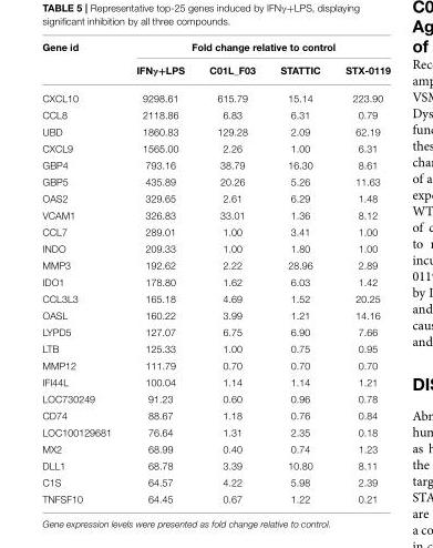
<table><thead><tr><td rowspan="2">Gene id</td><td colspan="4">Fold change relative to control</td></tr><tr><td>IFNγ+LPS</td><td>C01L_F03</td><td>STATTIC</td><td>STX-0119</td></tr></thead><tbody><tr><td>CXCL10</td><td>9298.61</td><td>615.79</td><td>15.14</td><td>223.90</td></tr><tr><td>CCL8</td><td>2118.86</td><td>6.83</td><td>6.31</td><td>0.79</td></tr><tr><td>UBD</td><td>1860.83</td><td>129.28</td><td>2.09</td><td>62.19</td></tr><tr><td>CXCL9</td><td>1565.00</td><td>2.26</td><td>1.00</td><td>6.31</td></tr><tr><td>GBP4</td><td>793.16</td><td>38.79</td><td>16.30</td><td>8.61</td></tr><tr><td>GBP5</td><td>435.89</td><td>20.26</td><td>5.26</td><td>11.63</td></tr><tr><td>OAS2</td><td>329.65</td><td>2.61</td><td>6.29</td><td>1.48</td></tr><tr><td>VCAM1</td><td>326.83</td><td>33.01</td><td>1.36</td><td>8.12</td></tr><tr><td>CCL7</td><td>289.01</td><td>1.00</td><td>3.41</td><td>1.00</td></tr><tr><td>INDO</td><td>209.33</td><td>1.00</td><td>1.80</td><td>1.00</td></tr><tr><td>MMP3</td><td>192.62</td><td>2.22</td><td>28.96</td><td>2.89</td></tr><tr><td>IDO1</td><td>178.80</td><td>1.62</td><td>6.03</td><td>1.42</td></tr><tr><td>CCL3L3</td><td>165.18</td><td>4.69</td><td>1.52</td><td>20.25</td></tr><tr><td>OASL</td><td>160.22</td><td>3.99</td><td>1.21</td><td>14.16</td></tr><tr><td>LYPD5</td><td>127.07</td><td>6.75</td><td>6.90</td><td>7.66</td></tr><tr><td>LTB</td><td>125.33</td><td>1.00</td><td>0.75</td><td>0.95</td></tr><tr><td>MMP12</td><td>111.79</td><td>0.70</td><td>0.70</td><td>0.70</td></tr><tr><td>IFI44L</td><td>100.04</td><td>1.14</td><td>1.14</td><td>1.21</td></tr><tr><td>LOC730249</td><td>91.23</td><td>0.60</td><td>0.96</td><td>0.78</td></tr><tr><td>CD74</td><td>88.67</td><td>1.18</td><td>0.76</td><td>0.84</td></tr><tr><td>LOC100129681</td><td>76.64</td><td>1.31</td><td>2.35</td><td>0.18</td></tr><tr><td>MX2</td><td>68.99</td><td>0.40</td><td>0.74</td><td>1.23</td></tr><tr><td>DLL1</td><td>68.78</td><td>3.39</td><td>10.80</td><td>8.11</td></tr><tr><td>C1S</td><td>64.57</td><td>4.22</td><td>5.98</td><td>2.39</td></tr><tr><td>TNFSF10</td><td>64.45</td><td>0.67</td><td>1.22</td><td>0.21</td></tr></tbody></table>